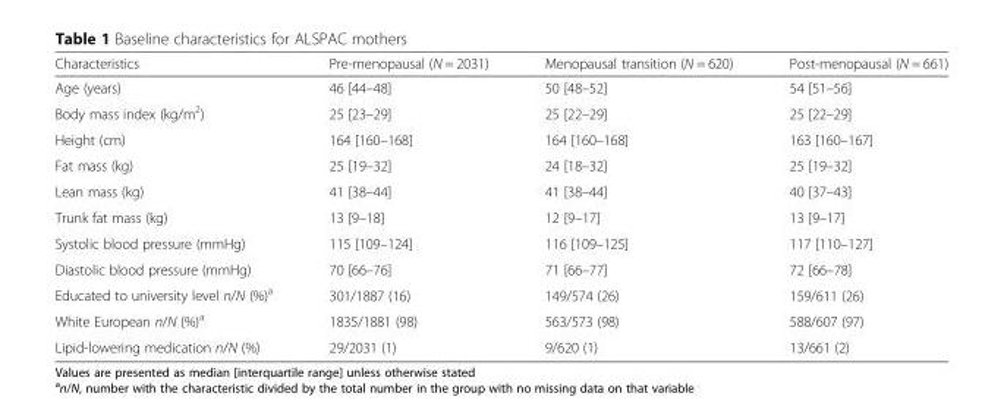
<table><thead><tr><td>Characteristics</td><td>Pre-menopausal (N = 2031)</td><td>Menopausal transition (N = 620)</td><td>Post-menopausal (N = 661)</td></tr></thead><tbody><tr><td>Age (years)</td><td>46 [44–48]</td><td>50 [48–52]</td><td>54 [51–56]</td></tr><tr><td>Body mass index (kg/m<sup>2</sup>)</td><td>25 [23–29]</td><td>25 [22–29]</td><td>25 [22–29]</td></tr><tr><td>Height (cm)</td><td>164 [160–168]</td><td>164 [160–168]</td><td>163 [160–167]</td></tr><tr><td>Fat mass (kg)</td><td>25 [19–32]</td><td>24 [18–32]</td><td>25 [19–32]</td></tr><tr><td>Lean mass (kg)</td><td>41 [38–44]</td><td>41 [38–44]</td><td>40 [37–43]</td></tr><tr><td>Trunk fat mass (kg)</td><td>13 [9–18]</td><td>12 [9–17]</td><td>13 [9–17]</td></tr><tr><td>Systolic blood pressure (mmHg)</td><td>115 [109–124]</td><td>116 [109–125]</td><td>117 [110–127]</td></tr><tr><td>Diastolic blood pressure (mmHg)</td><td>70 [66–76]</td><td>71 [66–77]</td><td>72 [66–78]</td></tr><tr><td>Educated to university level n/N (%)<sup>a</sup></td><td>301/1887 (16)</td><td>149/574 (26)</td><td>159/611 (26)</td></tr><tr><td>White European n/N (%)<sup>a</sup></td><td>1835/1881 (98)</td><td>563/573 (98)</td><td>588/607 (97)</td></tr><tr><td>Lipid-lowering medication n/N (%)</td><td>29/2031 (1)</td><td>9/620 (1)</td><td>13/661 (2)</td></tr></tbody></table>